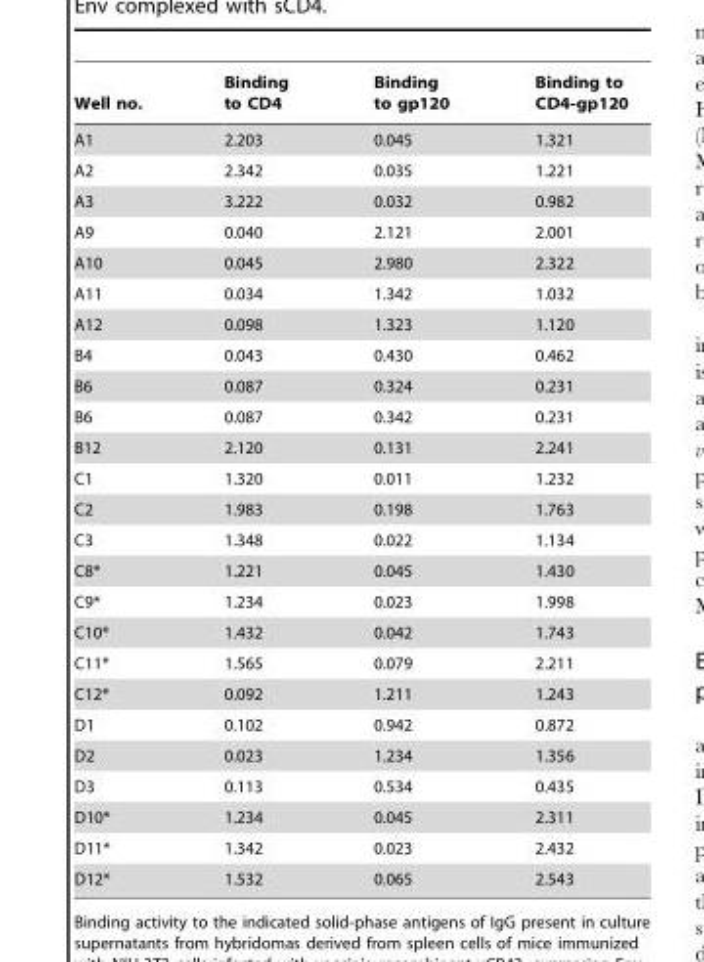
<table><thead><tr><td>Well no.</td><td>Binding to CD4</td><td>Binding to gp120</td><td>Binding to CD4-gp120</td></tr></thead><tbody><tr><td>A1</td><td>2.203</td><td>0.045</td><td>1.321</td></tr><tr><td>A2</td><td>2.342</td><td>0.035</td><td>1.221</td></tr><tr><td>A3</td><td>3.222</td><td>0.032</td><td>0.982</td></tr><tr><td>A9</td><td>0.040</td><td>2.121</td><td>2.001</td></tr><tr><td>A10</td><td>0.045</td><td>2.980</td><td>2.322</td></tr><tr><td>A11</td><td>0.034</td><td>1.342</td><td>1.032</td></tr><tr><td>A12</td><td>0.098</td><td>1.323</td><td>1.120</td></tr><tr><td>B4</td><td>0.043</td><td>0.430</td><td>0.462</td></tr><tr><td>B6</td><td>0.087</td><td>0.324</td><td>0.231</td></tr><tr><td>B6</td><td>0.087</td><td>0.342</td><td>0.231</td></tr><tr><td>B12</td><td>2.120</td><td>0.131</td><td>2.241</td></tr><tr><td>C1</td><td>1.320</td><td>0.011</td><td>1.232</td></tr><tr><td>C2</td><td>1.983</td><td>0.198</td><td>1.763</td></tr><tr><td>C3</td><td>1.348</td><td>0.022</td><td>1.134</td></tr><tr><td>C8*</td><td>1.221</td><td>0.045</td><td>1.430</td></tr><tr><td>C9*</td><td>1.234</td><td>0.023</td><td>1.998</td></tr><tr><td>C10*</td><td>1.432</td><td>0.042</td><td>1.743</td></tr><tr><td>C11*</td><td>1.565</td><td>0.079</td><td>2.211</td></tr><tr><td>C12*</td><td>0.092</td><td>1.211</td><td>1.243</td></tr><tr><td>D1</td><td>0.102</td><td>0.942</td><td>0.872</td></tr><tr><td>D2</td><td>0.023</td><td>1.234</td><td>1.356</td></tr><tr><td>D3</td><td>0.113</td><td>0.534</td><td>0.435</td></tr><tr><td>D10*</td><td>1.234</td><td>0.045</td><td>2.311</td></tr><tr><td>D11*</td><td>1.342</td><td>0.023</td><td>2.432</td></tr><tr><td>D12*</td><td>1.532</td><td>0.065</td><td>2.543</td></tr></tbody></table>